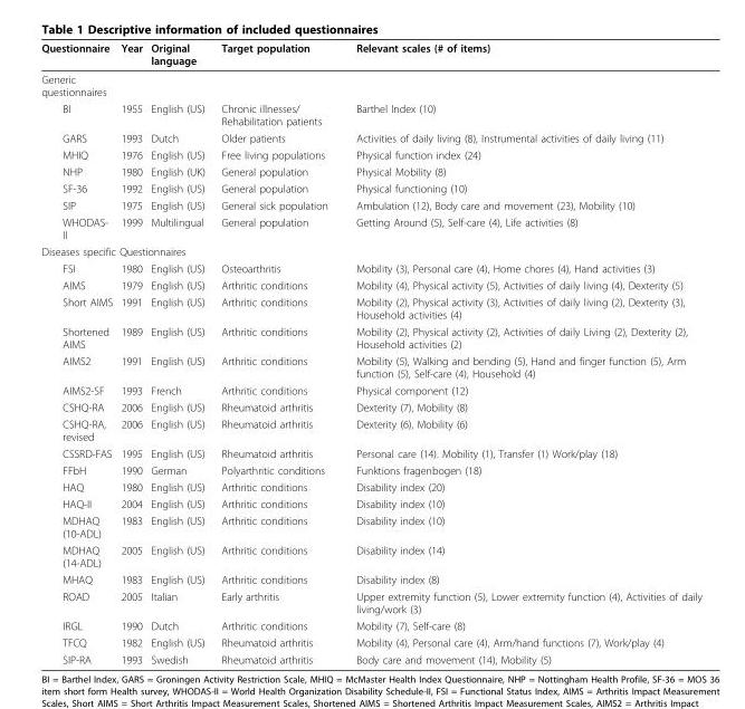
<table><thead><tr><td>Questionnaire</td><td>Year</td><td>Original language</td><td>Target population</td><td>Relevant scales (# of items)</td></tr></thead><tbody><tr><td colspan="5">Generic questionnaires</td></tr><tr><td>BI</td><td>1955</td><td>English (US)</td><td>Chronic illnesses/ Rehabilitation patients</td><td>Barthel Index (10)</td></tr><tr><td>GARS</td><td>1993</td><td>Dutch</td><td>Older patients</td><td>Activities of daily living (8), Instrumental activities of daily living (11)</td></tr><tr><td>MHIQ</td><td>1976</td><td>English (US)</td><td>Free living populations</td><td>Physical function index (24)</td></tr><tr><td>NHP</td><td>1980</td><td>English (UK)</td><td>General population</td><td>Physical Mobility (8)</td></tr><tr><td>SF-36</td><td>1992</td><td>English (US)</td><td>General population</td><td>Physical functioning (10)</td></tr><tr><td>SIP</td><td>1975</td><td>English (US)</td><td>General sick population</td><td>Ambulation (12), Body care and movement (23), Mobility (10)</td></tr><tr><td>WHODAS- II</td><td>1999</td><td>Multilingual</td><td>General population</td><td>Getting Around (5), Self-care (4), Life activities (8)</td></tr><tr><td colspan="5">Diseases specific Questionnaires</td></tr><tr><td>FSI</td><td>1980</td><td>English (US)</td><td>Osteoarthritis</td><td>Mobility (3), Personal care (4), Home chores (4), Hand activities (3)</td></tr><tr><td>AIMS</td><td>1979</td><td>English (US)</td><td>Arthritic conditions</td><td>Mobility (4), Physical activity (5), Activities of daily living (4), Dexterity (5)</td></tr><tr><td>Short AIMS</td><td>1991</td><td>English (US)</td><td>Arthritic conditions</td><td>Mobility (2), Physical activity (3), Activities of daily living (2), Dexterity (3), Household activities (4)</td></tr><tr><td>Shortened AIMS</td><td>1989</td><td>English (US)</td><td>Arthritic conditions</td><td>Mobility (2), Physical activity (2), Activities of daily Living (2), Dexterity (2), Household activities (2)</td></tr><tr><td>AIMS2</td><td>1991</td><td>English (US)</td><td>Arthritic conditions</td><td>Mobility (5), Walking and bending (5), Hand and finger function (5), Arm function (5), Self-care (4), Household (4)</td></tr><tr><td>AIMS2-SF</td><td>1993</td><td>French</td><td>Arthritic conditions</td><td>Physical component (12)</td></tr><tr><td>CSHQ-RA</td><td>2006</td><td>English (US)</td><td>Rheumatoid arthritis</td><td>Dexterity (7), Mobility (8)</td></tr><tr><td>CSHQ-RA, revised</td><td>2006</td><td>English (US)</td><td>Rheumatoid arthritis</td><td>Dexterity (6), Mobility (6)</td></tr><tr><td>CSSRD-FAS</td><td>1995</td><td>English (US)</td><td>Rheumatoid arthritis</td><td>Personal care (14). Mobility (1), Transfer (1) Work/play (18)</td></tr><tr><td>FFbH</td><td>1990</td><td>German</td><td>Polyarthritic conditions</td><td>Funktions fragenbogen (18)</td></tr><tr><td>HAQ</td><td>1980</td><td>English (US)</td><td>Arthritic conditions</td><td>Disability index (20)</td></tr><tr><td>HAQ-II</td><td>2004</td><td>English (US)</td><td>Arthritic conditions</td><td>Disability index (10)</td></tr><tr><td>MDHAQ (10-ADL)</td><td>1983</td><td>English (US)</td><td>Arthritic conditions</td><td>Disability index (10)</td></tr><tr><td>MDHAQ (14-ADL)</td><td>2005</td><td>English (US)</td><td>Arthritic conditions</td><td>Disability index (14)</td></tr><tr><td>MHAQ</td><td>1983</td><td>English (US)</td><td>Arthritic conditions</td><td>Disability index (8)</td></tr><tr><td>ROAD</td><td>2005</td><td>Italian</td><td>Early arthritis</td><td>Upper extremity function (5), Lower extremity function (4), Activities of daily living/work (3)</td></tr><tr><td>IRGL</td><td>1990</td><td>Dutch</td><td>Arthritic conditions</td><td>Mobility (7), Self-care (8)</td></tr><tr><td>TFCQ</td><td>1982</td><td>English (US)</td><td>Rheumatoid arthritis</td><td>Mobility (4), Personal care (4), Arm/hand functions (7), Work/play (4)</td></tr><tr><td>SIP-RA</td><td>1993</td><td>Swedish</td><td>Rheumatoid arthritis</td><td>Body care and movement (14), Mobility (5)</td></tr></tbody></table>